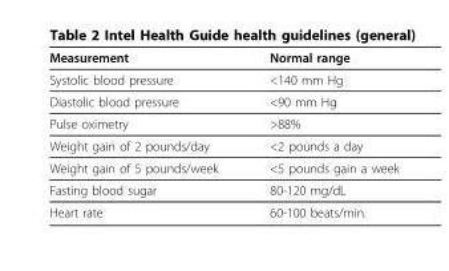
<table><thead><tr><td>Measurement</td><td>Normal range</td></tr></thead><tbody><tr><td>Systolic blood pressure</td><td>&lt;140 mm Hg</td></tr><tr><td>Diastolic blood pressure</td><td>&lt;90 mm Hg</td></tr><tr><td>Pulse oximetry</td><td>&gt;88%</td></tr><tr><td>Weight gain of 2 pounds/day</td><td>&lt;2 pounds a day</td></tr><tr><td>Weight gain of 5 pounds/week</td><td>&lt;5 pounds gain a week</td></tr><tr><td>Fasting blood sugar</td><td>80-120 mg/dL</td></tr><tr><td>Heart rate</td><td>60-100 beats/min.</td></tr></tbody></table>